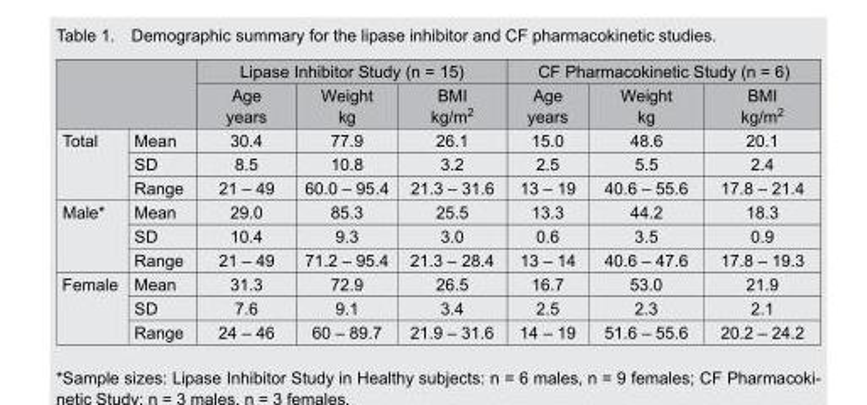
<table><thead><tr><td rowspan="2"></td><td rowspan="2"></td><td colspan="3">Lipase Inhibitor Study (n = 15)</td><td colspan="3">CF Pharmacokinetic Study (n = 6)</td></tr><tr><td>Age years</td><td>Weight kg</td><td>BMI kg/m<sup>2</sup></td><td>Age years</td><td>Weight kg</td><td>BMI kg/m<sup>2</sup></td></tr></thead><tbody><tr><td rowspan="3">Total</td><td>Mean</td><td>30.4</td><td>77.9</td><td>26.1</td><td>15.0</td><td>48.6</td><td>20.1</td></tr><tr><td>SD</td><td>8.5</td><td>10.8</td><td>3.2</td><td>2.5</td><td>5.5</td><td>2.4</td></tr><tr><td>Range</td><td>21 – 49</td><td>60.0 – 95.4</td><td>21.3 – 31.6</td><td>13 – 19</td><td>40.6 – 55.6</td><td>17.8 – 21.4</td></tr><tr><td rowspan="3">Male*</td><td>Mean</td><td>29.0</td><td>85.3</td><td>25.5</td><td>13.3</td><td>44.2</td><td>18.3</td></tr><tr><td>SD</td><td>10.4</td><td>9.3</td><td>3.0</td><td>0.6</td><td>3.5</td><td>0.9</td></tr><tr><td>Range</td><td>21 – 49</td><td>71.2 – 95.4</td><td>21.3 – 28.4</td><td>13 – 14</td><td>40.6 – 47.6</td><td>17.8 – 19.3</td></tr><tr><td rowspan="3">Female</td><td>Mean</td><td>31.3</td><td>72.9</td><td>26.5</td><td>16.7</td><td>53.0</td><td>21.9</td></tr><tr><td>SD</td><td>7.6</td><td>9.1</td><td>3.4</td><td>2.5</td><td>2.3</td><td>2.1</td></tr><tr><td>Range</td><td>24 – 46</td><td>60 – 89.7</td><td>21.9 – 31.6</td><td>14 – 19</td><td>51.6 – 55.6</td><td>20.2 – 24.2</td></tr></tbody></table>